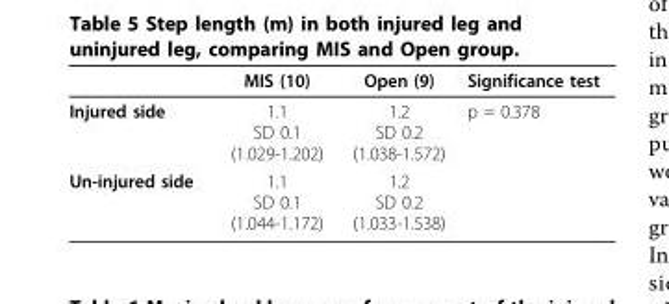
<table><thead><tr><td></td><td>MIS (10)</td><td>Open (9)</td><td>Significance test</td></tr></thead><tbody><tr><td>Injured side</td><td>1.1 SD 0.1 (1.029-1.202)</td><td>1.2 SD 0.2 (1.038-1.572)</td><td>p = 0.378</td></tr><tr><td>Un-injured side</td><td>1.1 SD 0.1 (1.044-1.172)</td><td>1.2 SD 0.2 (1.033-1.538)</td><td></td></tr></tbody></table>